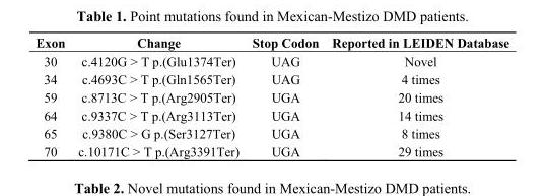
<table><thead><tr><td>Exon</td><td>Change</td><td>Stop Codon</td><td>Reported in LEIDEN Database</td></tr></thead><tbody><tr><td>30</td><td>c.4120G &gt; T p.(Glu1374Ter)</td><td>UAG</td><td>Novel</td></tr><tr><td>34</td><td>c.4693C &gt; T p.(Gln1565Ter)</td><td>UAG</td><td>4 times</td></tr><tr><td>59</td><td>c.8713C &gt; T p.(Arg2905Ter)</td><td>UGA</td><td>20 times</td></tr><tr><td>64</td><td>c.9337C &gt; T p.(Arg3113Ter)</td><td>UGA</td><td>14 times</td></tr><tr><td>65</td><td>c.9380C &gt; G p.(Ser3127Ter)</td><td>UGA</td><td>8 times</td></tr><tr><td>70</td><td>c.10171C &gt; T p.(Arg3391Ter)</td><td>UGA</td><td>29 times</td></tr></tbody></table>